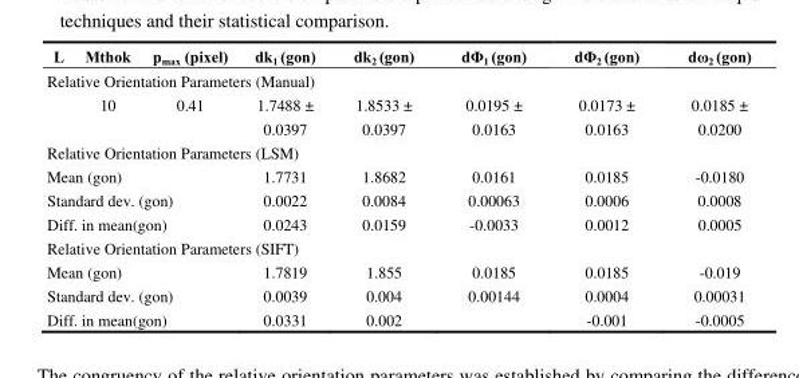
<table><thead><tr><td>L</td><td>Mthok</td><td>p<sub>max</sub> (pixel)</td><td>dk<sub>1</sub> (gon)</td><td>dk<sub>2</sub> (gon)</td><td>dΦ<sub>1</sub> (gon)</td><td>dΦ<sub>2</sub> (gon)</td><td>dω<sub>2</sub> (gon)</td></tr></thead><tbody><tr><td colspan="8">Relative Orientation Parameters (Manual)</td></tr><tr><td></td><td>10</td><td>0.41</td><td>1.7488 ± 0.0397</td><td>1.8533 ± 0.0397</td><td>0.0195 ± 0.0163</td><td>0.0173 ± 0.0163</td><td>0.0185 ± 0.0200</td></tr><tr><td colspan="8">Relative Orientation Parameters (LSM)</td></tr><tr><td colspan="3">Mean (gon)</td><td>1.7731</td><td>1.8682</td><td>0.0161</td><td>0.0185</td><td>-0.0180</td></tr><tr><td colspan="3">Standard dev. (gon)</td><td>0.0022</td><td>0.0084</td><td>0.00063</td><td>0.0006</td><td>0.0008</td></tr><tr><td colspan="3">Diff. in mean(gon)</td><td>0.0243</td><td>0.0159</td><td>-0.0033</td><td>0.0012</td><td>0.0005</td></tr><tr><td colspan="8">Relative Orientation Parameters (SIFT)</td></tr><tr><td colspan="3">Mean (gon)</td><td>1.7819</td><td>1.855</td><td>0.0185</td><td>0.0185</td><td>-0.019</td></tr><tr><td colspan="3">Standard dev. (gon)</td><td>0.0039</td><td>0.004</td><td>0.00144</td><td>0.0004</td><td>0.00031</td></tr><tr><td colspan="3">Diff. in mean(gon)</td><td>0.0331</td><td>0.002</td><td></td><td>-0.001</td><td>-0.0005</td></tr></tbody></table>